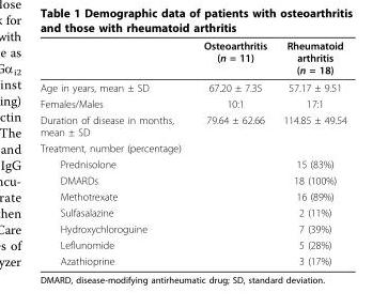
<table><thead><tr><td></td><td>Osteoarthritis (n = 11)</td><td>Rheumatoid arthritis (n = 18)</td></tr></thead><tbody><tr><td>Age in years, mean ± SD</td><td>67.20 ± 7.35</td><td>57.17 ± 9.51</td></tr><tr><td>Females/Males</td><td>10:1</td><td>17:1</td></tr><tr><td>Duration of disease in months, mean ± SD</td><td>79.64 ± 62.66</td><td>114.85 ± 49.54</td></tr><tr><td colspan="3">Treatment, number (percentage)</td></tr><tr><td>Prednisolone</td><td></td><td>15 (83%)</td></tr><tr><td>DMARDs</td><td></td><td>18 (100%)</td></tr><tr><td>Methotrexate</td><td></td><td>16 (89%)</td></tr><tr><td>Sulfasalazine</td><td></td><td>2 (11%)</td></tr><tr><td>Hydroxychloroguine</td><td></td><td>7 (39%)</td></tr><tr><td>Leflunomide</td><td></td><td>5 (28%)</td></tr><tr><td>Azathioprine</td><td></td><td>3 (17%)</td></tr></tbody></table>